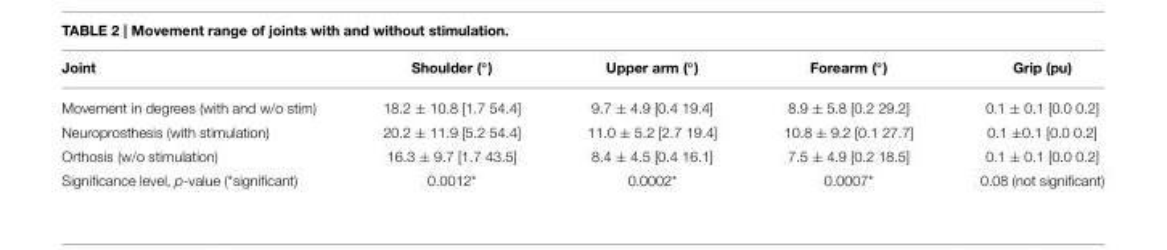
<table><thead><tr><td>Joint</td><td>Shoulder (◦)</td><td>Upper arm (◦)</td><td>Forearm (◦)</td><td>Grip (pu)</td></tr></thead><tbody><tr><td>Movement in degrees (with and w/o stim)</td><td>18.2 ± 10.8 [1.7 54.4]</td><td>9.7 ± 4.9 [0.4 19.4]</td><td>8.9 ± 5.8 [0.2 29.2]</td><td>0.1 ± 0.1 [0.0 0.2]</td></tr><tr><td>Neuroprosthesis (with stimulation)</td><td>20.2 ± 11.9 [5.2 54.4]</td><td>11.0 ± 5.2 [2.7 19.4]</td><td>10.8 ± 9.2 [0.1 27.7]</td><td>0.1 ±0.1 [0.0 0.2]</td></tr><tr><td>Orthosis (w/o stimulation)</td><td>16.3 ± 9.7 [1.7 43.5]</td><td>8.4 ± 4.5 [0.4 16.1]</td><td>7.5 ± 4.9 [0.2 18.5]</td><td>0.1 ± 0.1 [0.0 0.2]</td></tr><tr><td>Significance level, p-value (*significant)</td><td>0.0012*</td><td>0.0002*</td><td>0.0007*</td><td>0.08 (not significant)</td></tr></tbody></table>